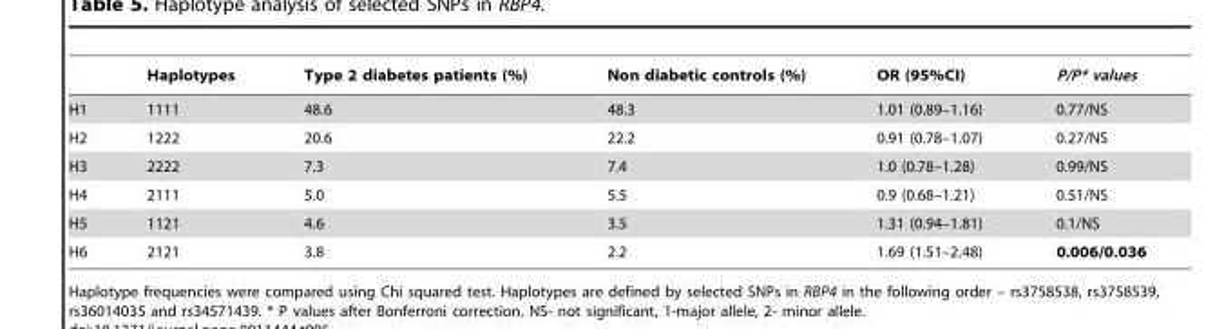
<table><thead><tr><td></td><td>Haplotypes</td><td>Type 2 diabetes patients (%)</td><td>Non diabetic controls (%)</td><td>OR (95%CI)</td><td>P/P* values</td></tr></thead><tbody><tr><td>H1</td><td>1111</td><td>48.6</td><td>48.3</td><td>1.01 (0.89–1.16)</td><td>0.77/NS</td></tr><tr><td>H2</td><td>1222</td><td>20.6</td><td>22.2</td><td>0.91 (0.78–1.07)</td><td>0.27/NS</td></tr><tr><td>H3</td><td>2222</td><td>7.3</td><td>7.4</td><td>1.0 (0.78–1.28)</td><td>0.99/NS</td></tr><tr><td>H4</td><td>2111</td><td>5.0</td><td>5.5</td><td>0.9 (0.68–1.21)</td><td>0.51/NS</td></tr><tr><td>H5</td><td>1121</td><td>4.6</td><td>3.5</td><td>1.31 (0.94–1.81)</td><td>0.1/NS</td></tr><tr><td>H6</td><td>2121</td><td>3.8</td><td>2.2</td><td>1.69 (1.51–2.48)</td><td>0.006/0.036</td></tr></tbody></table>